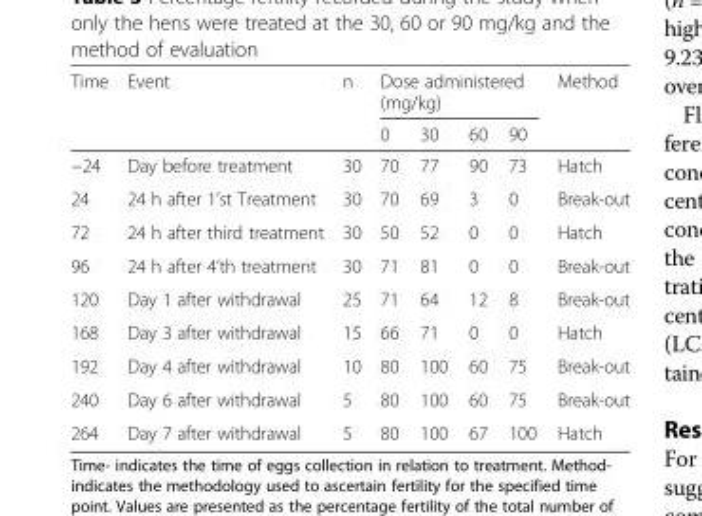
<table><thead><tr><td rowspan="2">Time</td><td rowspan="2">Event</td><td rowspan="2">n</td><td colspan="4">Dose administered (mg/kg)</td><td rowspan="2">Method</td></tr><tr><td>0</td><td>30</td><td>60</td><td>90</td></tr></thead><tbody><tr><td>−24</td><td>Day before treatment</td><td>30</td><td>70</td><td>77</td><td>90</td><td>73</td><td>Hatch</td></tr><tr><td>24</td><td>24 h after 1’st Treatment</td><td>30</td><td>70</td><td>69</td><td>3</td><td>0</td><td>Break-out</td></tr><tr><td>72</td><td>24 h after third treatment</td><td>30</td><td>50</td><td>52</td><td>0</td><td>0</td><td>Hatch</td></tr><tr><td>96</td><td>24 h after 4’th treatment</td><td>30</td><td>71</td><td>81</td><td>0</td><td>0</td><td>Break-out</td></tr><tr><td>120</td><td>Day 1 after withdrawal</td><td>25</td><td>71</td><td>64</td><td>12</td><td>8</td><td>Break-out</td></tr><tr><td>168</td><td>Day 3 after withdrawal</td><td>15</td><td>66</td><td>71</td><td>0</td><td>0</td><td>Hatch</td></tr><tr><td>192</td><td>Day 4 after withdrawal</td><td>10</td><td>80</td><td>100</td><td>60</td><td>75</td><td>Break-out</td></tr><tr><td>240</td><td>Day 6 after withdrawal</td><td>5</td><td>80</td><td>100</td><td>60</td><td>75</td><td>Break-out</td></tr><tr><td>264</td><td>Day 7 after withdrawal</td><td>5</td><td>80</td><td>100</td><td>67</td><td>100</td><td>Hatch</td></tr></tbody></table>